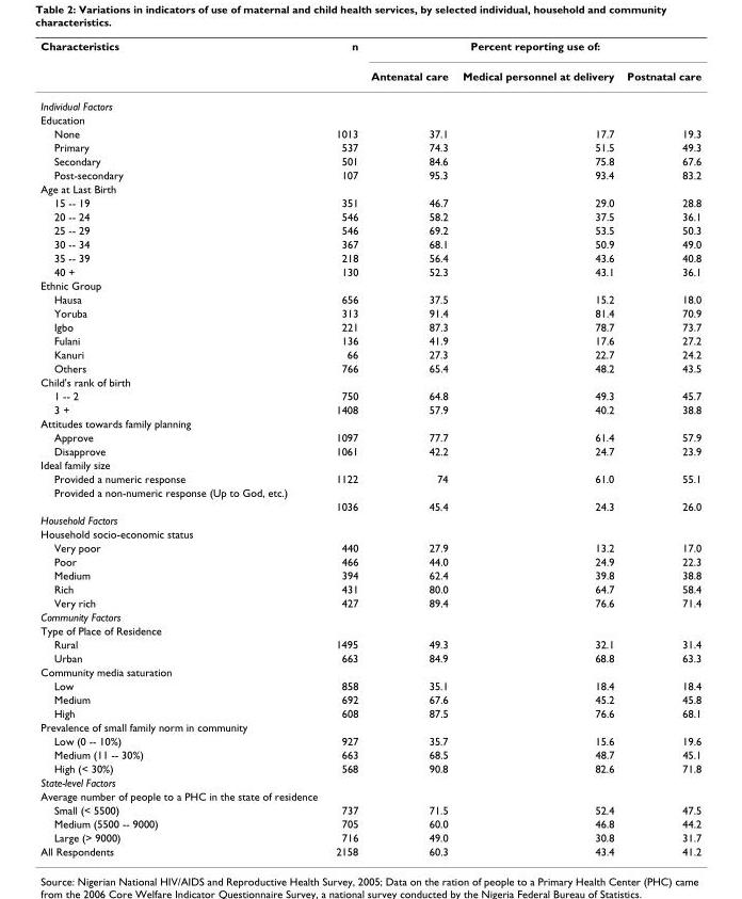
<table><thead><tr><td rowspan="2">Characteristics</td><td rowspan="2">n</td><td colspan="3">Percent reporting use of:</td></tr><tr><td>Antenatal care</td><td>Medical personnel at delivery</td><td>Postnatal care</td></tr></thead><tbody><tr><td colspan="5">Individual Factors</td></tr><tr><td colspan="5">Education</td></tr><tr><td>None</td><td>1013</td><td>37.1</td><td>17.7</td><td>19.3</td></tr><tr><td>Primary</td><td>537</td><td>74.3</td><td>51.5</td><td>49.3</td></tr><tr><td>Secondary</td><td>501</td><td>84.6</td><td>75.8</td><td>67.6</td></tr><tr><td>Post-secondary</td><td>107</td><td>95.3</td><td>93.4</td><td>83.2</td></tr><tr><td colspan="5">Age at Last Birth</td></tr><tr><td>15 -- 19</td><td>351</td><td>46.7</td><td>29.0</td><td>28.8</td></tr><tr><td>20 -- 24</td><td>546</td><td>58.2</td><td>37.5</td><td>36.1</td></tr><tr><td>25 -- 29</td><td>546</td><td>69.2</td><td>53.5</td><td>50.3</td></tr><tr><td>30 -- 34</td><td>367</td><td>68.1</td><td>50.9</td><td>49.0</td></tr><tr><td>35 -- 39</td><td>218</td><td>56.4</td><td>43.6</td><td>40.8</td></tr><tr><td>40 +</td><td>130</td><td>52.3</td><td>43.1</td><td>36.1</td></tr><tr><td colspan="5">Ethnic Group</td></tr><tr><td>Hausa</td><td>656</td><td>37.5</td><td>15.2</td><td>18.0</td></tr><tr><td>Yoruba</td><td>313</td><td>91.4</td><td>81.4</td><td>70.9</td></tr><tr><td>Igbo</td><td>221</td><td>87.3</td><td>78.7</td><td>73.7</td></tr><tr><td>Fulani</td><td>136</td><td>41.9</td><td>17.6</td><td>27.2</td></tr><tr><td>Kanuri</td><td>66</td><td>27.3</td><td>22.7</td><td>24.2</td></tr><tr><td>Others</td><td>766</td><td>65.4</td><td>48.2</td><td>43.5</td></tr><tr><td colspan="5">Child&#x27;s rank of birth</td></tr><tr><td>1 -- 2</td><td>750</td><td>64.8</td><td>49.3</td><td>45.7</td></tr><tr><td>3 +</td><td>1408</td><td>57.9</td><td>40.2</td><td>38.8</td></tr><tr><td colspan="5">Attitudes towards family planning</td></tr><tr><td>Approve</td><td>1097</td><td>77.7</td><td>61.4</td><td>57.9</td></tr><tr><td>Disapprove</td><td>1061</td><td>42.2</td><td>24.7</td><td>23.9</td></tr><tr><td colspan="5">Ideal family size</td></tr><tr><td>Provided a numeric response</td><td>1122</td><td>74</td><td>61.0</td><td>55.1</td></tr><tr><td colspan="5">Provided a non-numeric response (Up to God, etc.)</td></tr><tr><td></td><td>1036</td><td>45.4</td><td>24.3</td><td>26.0</td></tr><tr><td colspan="5">Household Factors</td></tr><tr><td colspan="5">Household socio-economic status</td></tr><tr><td>Very poor</td><td>440</td><td>27.9</td><td>13.2</td><td>17.0</td></tr><tr><td>Poor</td><td>466</td><td>44.0</td><td>24.9</td><td>22.3</td></tr><tr><td>Medium</td><td>394</td><td>62.4</td><td>39.8</td><td>38.8</td></tr><tr><td>Rich</td><td>431</td><td>80.0</td><td>64.7</td><td>58.4</td></tr><tr><td>Very rich</td><td>427</td><td>89.4</td><td>76.6</td><td>71.4</td></tr><tr><td colspan="5">Community Factors</td></tr><tr><td colspan="5">Type of Place of Residence</td></tr><tr><td>Rural</td><td>1495</td><td>49.3</td><td>32.1</td><td>31.4</td></tr><tr><td>Urban</td><td>663</td><td>84.9</td><td>68.8</td><td>63.3</td></tr><tr><td colspan="5">Community media saturation</td></tr><tr><td>Low</td><td>858</td><td>35.1</td><td>18.4</td><td>18.4</td></tr><tr><td>Medium</td><td>692</td><td>67.6</td><td>45.2</td><td>45.8</td></tr><tr><td>High</td><td>608</td><td>87.5</td><td>76.6</td><td>68.1</td></tr><tr><td colspan="5">Prevalence of small family norm in community</td></tr><tr><td>Low (0 -- 10%)</td><td>927</td><td>35.7</td><td>15.6</td><td>19.6</td></tr><tr><td>Medium (11 -- 30%)</td><td>663</td><td>68.5</td><td>48.7</td><td>45.1</td></tr><tr><td>High (&lt; 30%)</td><td>568</td><td>90.8</td><td>82.6</td><td>71.8</td></tr><tr><td colspan="5">State-level Factors</td></tr><tr><td colspan="5">Average number of people to a PHC in the state of residence</td></tr><tr><td>Small (&lt; 5500)</td><td>737</td><td>71.5</td><td>52.4</td><td>47.5</td></tr><tr><td>Medium (5500 -- 9000)</td><td>705</td><td>60.0</td><td>46.8</td><td>44.2</td></tr><tr><td>Large (&gt; 9000)</td><td>716</td><td>49.0</td><td>30.8</td><td>31.7</td></tr><tr><td>All Respondents</td><td>2158</td><td>60.3</td><td>43.4</td><td>41.2</td></tr></tbody></table>